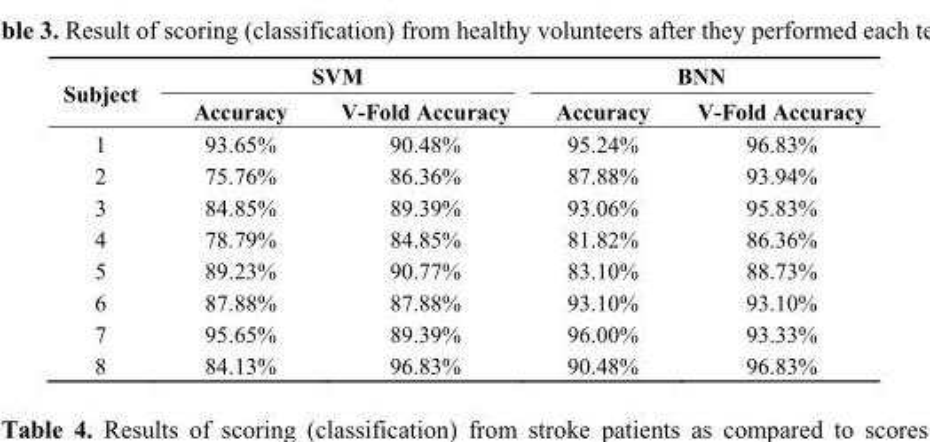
<table><thead><tr><td rowspan="2">Subject</td><td colspan="2">SVM</td><td colspan="2">BNN</td></tr><tr><td>Accuracy</td><td>V-Fold Accuracy</td><td>Accuracy</td><td>V-Fold Accuracy</td></tr></thead><tbody><tr><td>1</td><td>93.65%</td><td>90.48%</td><td>95.24%</td><td>96.83%</td></tr><tr><td>2</td><td>75.76%</td><td>86.36%</td><td>87.88%</td><td>93.94%</td></tr><tr><td>3</td><td>84.85%</td><td>89.39%</td><td>93.06%</td><td>95.83%</td></tr><tr><td>4</td><td>78.79%</td><td>84.85%</td><td>81.82%</td><td>86.36%</td></tr><tr><td>5</td><td>89.23%</td><td>90.77%</td><td>83.10%</td><td>88.73%</td></tr><tr><td>6</td><td>87.88%</td><td>87.88%</td><td>93.10%</td><td>93.10%</td></tr><tr><td>7</td><td>95.65%</td><td>89.39%</td><td>96.00%</td><td>93.33%</td></tr><tr><td>8</td><td>84.13%</td><td>96.83%</td><td>90.48%</td><td>96.83%</td></tr></tbody></table>